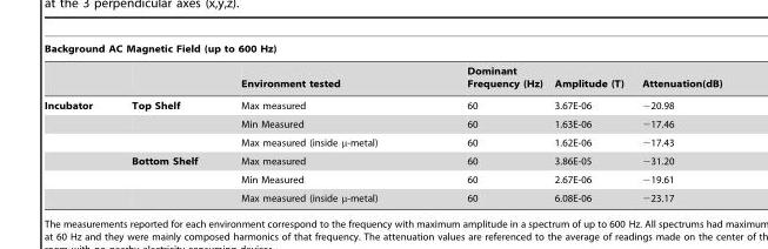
<table><thead><tr><td colspan="6">Background AC Magnetic Field (up to 600 Hz)</td></tr><tr><td></td><td></td><td>Environment tested</td><td>Dominant Frequency (Hz)</td><td>Amplitude (T)</td><td>Attenuation(dB)</td></tr></thead><tbody><tr><td rowspan="6">Incubator</td><td>Top Shelf</td><td>Max measured</td><td>60</td><td>3.67E-06</td><td>−20.98</td></tr><tr><td></td><td>Min Measured</td><td>60</td><td>1.63E-06</td><td>−17.46</td></tr><tr><td></td><td>Max measured (inside μ-metal)</td><td>60</td><td>1.62E-06</td><td>−17.43</td></tr><tr><td>Bottom Shelf</td><td>Max measured</td><td>60</td><td>3.86E-05</td><td>−31.20</td></tr><tr><td></td><td>Min Measured</td><td>60</td><td>2.67E-06</td><td>−19.61</td></tr><tr><td></td><td>Max measured (inside μ-metal)</td><td>60</td><td>6.08E-06</td><td>−23.17</td></tr></tbody></table>